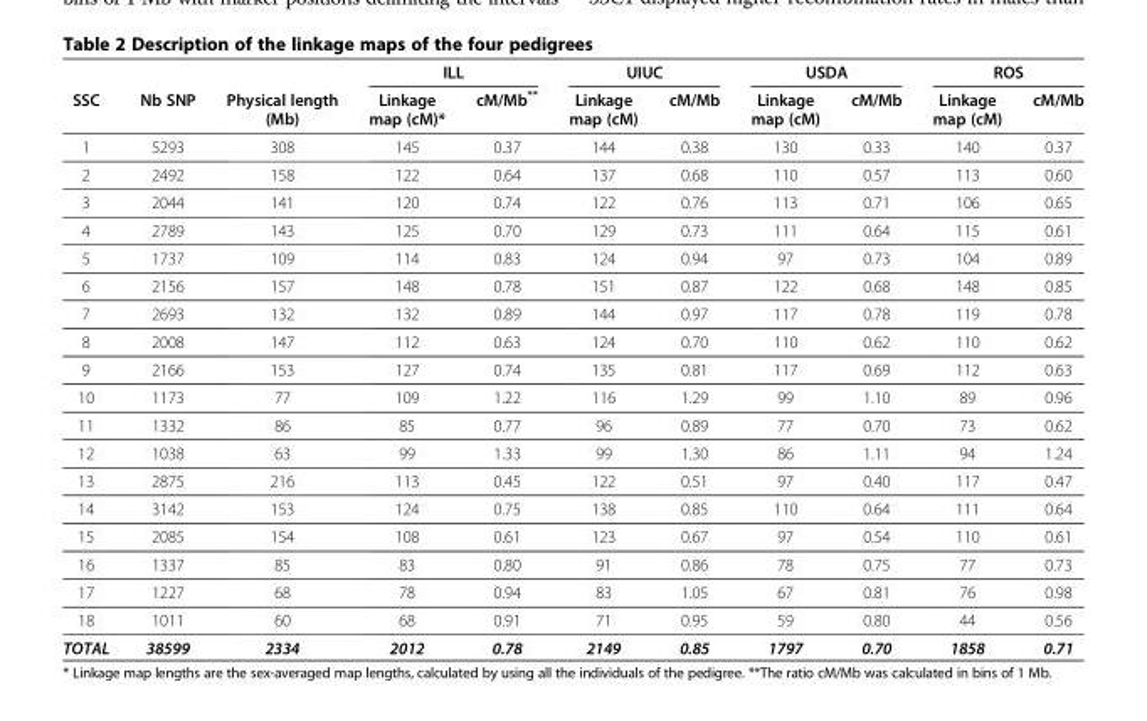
<table><thead><tr><td rowspan="2">SSC</td><td rowspan="2">Nb SNP</td><td rowspan="2">Physical length (Mb)</td><td colspan="2">ILL</td><td colspan="2">UIUC</td><td colspan="2">USDA</td><td colspan="2">ROS</td></tr><tr><td>Linkage map (cM)*</td><td>cM/Mb**</td><td>Linkage map (cM)</td><td>cM/Mb</td><td>Linkage map (cM)</td><td>cM/Mb</td><td>Linkage map (cM)</td><td>cM/Mb</td></tr></thead><tbody><tr><td>1</td><td>5293</td><td>308</td><td>145</td><td>0.37</td><td>144</td><td>0.38</td><td>130</td><td>0.33</td><td>140</td><td>0.37</td></tr><tr><td>2</td><td>2492</td><td>158</td><td>122</td><td>0.64</td><td>137</td><td>0.68</td><td>110</td><td>0.57</td><td>113</td><td>0.60</td></tr><tr><td>3</td><td>2044</td><td>141</td><td>120</td><td>0.74</td><td>122</td><td>0.76</td><td>113</td><td>0.71</td><td>106</td><td>0.65</td></tr><tr><td>4</td><td>2789</td><td>143</td><td>125</td><td>0.70</td><td>129</td><td>0.73</td><td>111</td><td>0.64</td><td>115</td><td>0.61</td></tr><tr><td>5</td><td>1737</td><td>109</td><td>114</td><td>0.83</td><td>124</td><td>0.94</td><td>97</td><td>0.73</td><td>104</td><td>0.89</td></tr><tr><td>6</td><td>2156</td><td>157</td><td>148</td><td>0.78</td><td>151</td><td>0.87</td><td>122</td><td>0.68</td><td>148</td><td>0.85</td></tr><tr><td>7</td><td>2693</td><td>132</td><td>132</td><td>0.89</td><td>144</td><td>0.97</td><td>117</td><td>0.78</td><td>119</td><td>0.78</td></tr><tr><td>8</td><td>2008</td><td>147</td><td>112</td><td>0.63</td><td>124</td><td>0.70</td><td>110</td><td>0.62</td><td>110</td><td>0.62</td></tr><tr><td>9</td><td>2166</td><td>153</td><td>127</td><td>0.74</td><td>135</td><td>0.81</td><td>117</td><td>0.69</td><td>112</td><td>0.63</td></tr><tr><td>10</td><td>1173</td><td>77</td><td>109</td><td>1.22</td><td>116</td><td>1.29</td><td>99</td><td>1.10</td><td>89</td><td>0.96</td></tr><tr><td>11</td><td>1332</td><td>86</td><td>85</td><td>0.77</td><td>96</td><td>0.89</td><td>77</td><td>0.70</td><td>73</td><td>0.62</td></tr><tr><td>12</td><td>1038</td><td>63</td><td>99</td><td>1.33</td><td>99</td><td>1.30</td><td>86</td><td>1.11</td><td>94</td><td>1.24</td></tr><tr><td>13</td><td>2875</td><td>216</td><td>113</td><td>0.45</td><td>122</td><td>0.51</td><td>97</td><td>0.40</td><td>117</td><td>0.47</td></tr><tr><td>14</td><td>3142</td><td>153</td><td>124</td><td>0.75</td><td>138</td><td>0.85</td><td>110</td><td>0.64</td><td>111</td><td>0.64</td></tr><tr><td>15</td><td>2085</td><td>154</td><td>108</td><td>0.61</td><td>123</td><td>0.67</td><td>97</td><td>0.54</td><td>110</td><td>0.61</td></tr><tr><td>16</td><td>1337</td><td>85</td><td>83</td><td>0.80</td><td>91</td><td>0.86</td><td>78</td><td>0.75</td><td>77</td><td>0.73</td></tr><tr><td>17</td><td>1227</td><td>68</td><td>78</td><td>0.94</td><td>83</td><td>1.05</td><td>67</td><td>0.81</td><td>76</td><td>0.98</td></tr><tr><td>18</td><td>1011</td><td>60</td><td>68</td><td>0.91</td><td>71</td><td>0.95</td><td>59</td><td>0.80</td><td>44</td><td>0.56</td></tr><tr><td>TOTAL</td><td>38599</td><td>2334</td><td>2012</td><td>0.78</td><td>2149</td><td>0.85</td><td>1797</td><td>0.70</td><td>1858</td><td>0.71</td></tr></tbody></table>